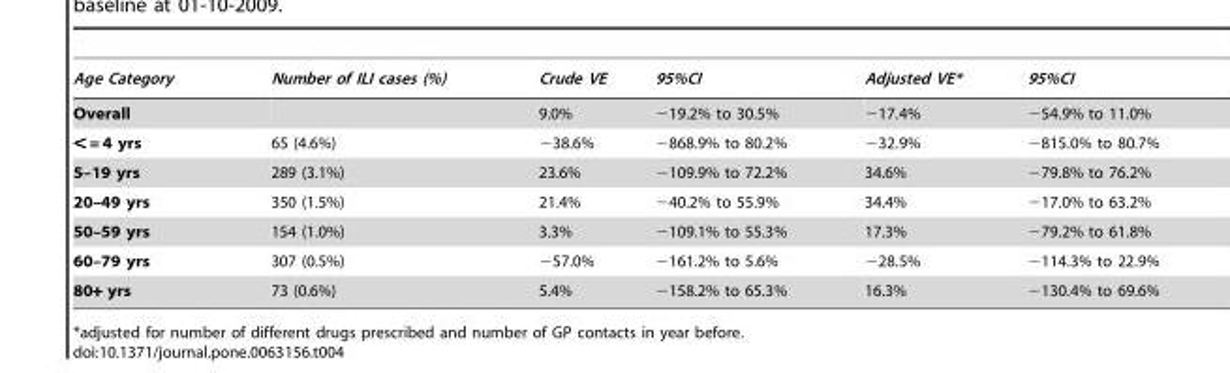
<table><thead><tr><td>Age Category</td><td>Number of ILI cases (%)</td><td>Crude VE</td><td>95%CI</td><td>Adjusted VE*</td><td>95%CI</td></tr></thead><tbody><tr><td>Overall</td><td></td><td>9.0%</td><td>−19.2% to 30.5%</td><td>−17.4%</td><td>−54.9% to 11.0%</td></tr><tr><td>&lt; = 4 yrs</td><td>65 (4.6%)</td><td>−38.6%</td><td>−868.9% to 80.2%</td><td>−32.9%</td><td>−815.0% to 80.7%</td></tr><tr><td>5–19 yrs</td><td>289 (3.1%)</td><td>23.6%</td><td>−109.9% to 72.2%</td><td>34.6%</td><td>−79.8% to 76.2%</td></tr><tr><td>20–49 yrs</td><td>350 (1.5%)</td><td>21.4%</td><td>−40.2% to 55.9%</td><td>34.4%</td><td>−17.0% to 63.2%</td></tr><tr><td>50–59 yrs</td><td>154 (1.0%)</td><td>3.3%</td><td>−109.1% to 55.3%</td><td>17.3%</td><td>−79.2% to 61.8%</td></tr><tr><td>60–79 yrs</td><td>307 (0.5%)</td><td>−57.0%</td><td>−161.2% to 5.6%</td><td>−28.5%</td><td>−114.3% to 22.9%</td></tr><tr><td>80+ yrs</td><td>73 (0.6%)</td><td>5.4%</td><td>−158.2% to 65.3%</td><td>16.3%</td><td>−130.4% to 69.6%</td></tr></tbody></table>